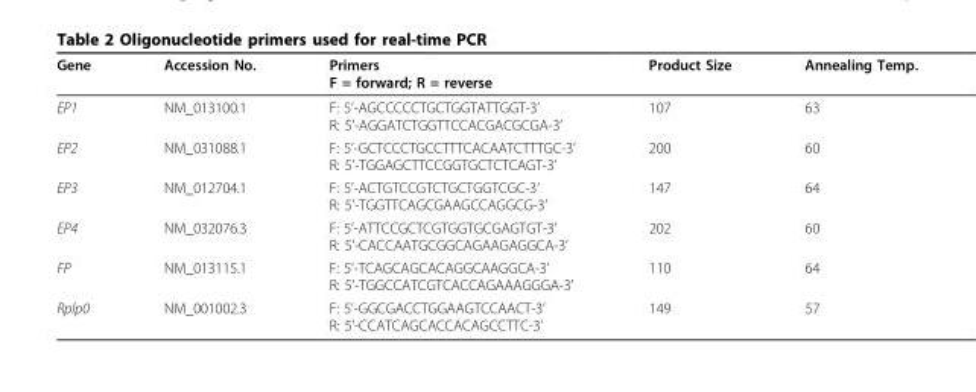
<table><thead><tr><td>Gene</td><td>Accession No.</td><td>Primers F = forward; R = reverse</td><td>Product Size</td><td>Annealing Temp.</td></tr></thead><tbody><tr><td>EP1</td><td>NM_013100.1</td><td>F: 5’-AGCCCCCTGCTGGTATTGGT-3’ R: 5’-AGGATCTGGTTCCACGACGCGA-3’</td><td>107</td><td>63</td></tr><tr><td>EP2</td><td>NM_031088.1</td><td>F: 5’-GCTCCCTGCCTTTCACAATCTTTGC-3’ R: 5’-TGGAGCTTCCGGTGCTCTCAGT-3’</td><td>200</td><td>60</td></tr><tr><td>EP3</td><td>NM_012704.1</td><td>F: 5’-ACTGTCCGTCTGCTGGTCGC-3’ R: 5’-TGGTTCAGCGAAGCCAGGCG-3’</td><td>147</td><td>64</td></tr><tr><td>EP4</td><td>NM_032076.3</td><td>F: 5’-ATTCCGCTCGTGGTGCGAGTGT-3’ R: 5’-CACCAATGCGGCAGAAGAGGCA-3’</td><td>202</td><td>60</td></tr><tr><td>FP</td><td>NM_013115.1</td><td>F: 5’-TCAGCAGCACAGGCAAGGCA-3’ R: 5’-TGGCCATCGTCACCAGAAAGGGA-3’</td><td>110</td><td>64</td></tr><tr><td>Rplp0</td><td>NM_001002.3</td><td>F: 5’-GGCGACCTGGAAGTCCAACT-3’ R: 5’-CCATCAGCACCACAGCCTTC-3’</td><td>149</td><td>57</td></tr></tbody></table>